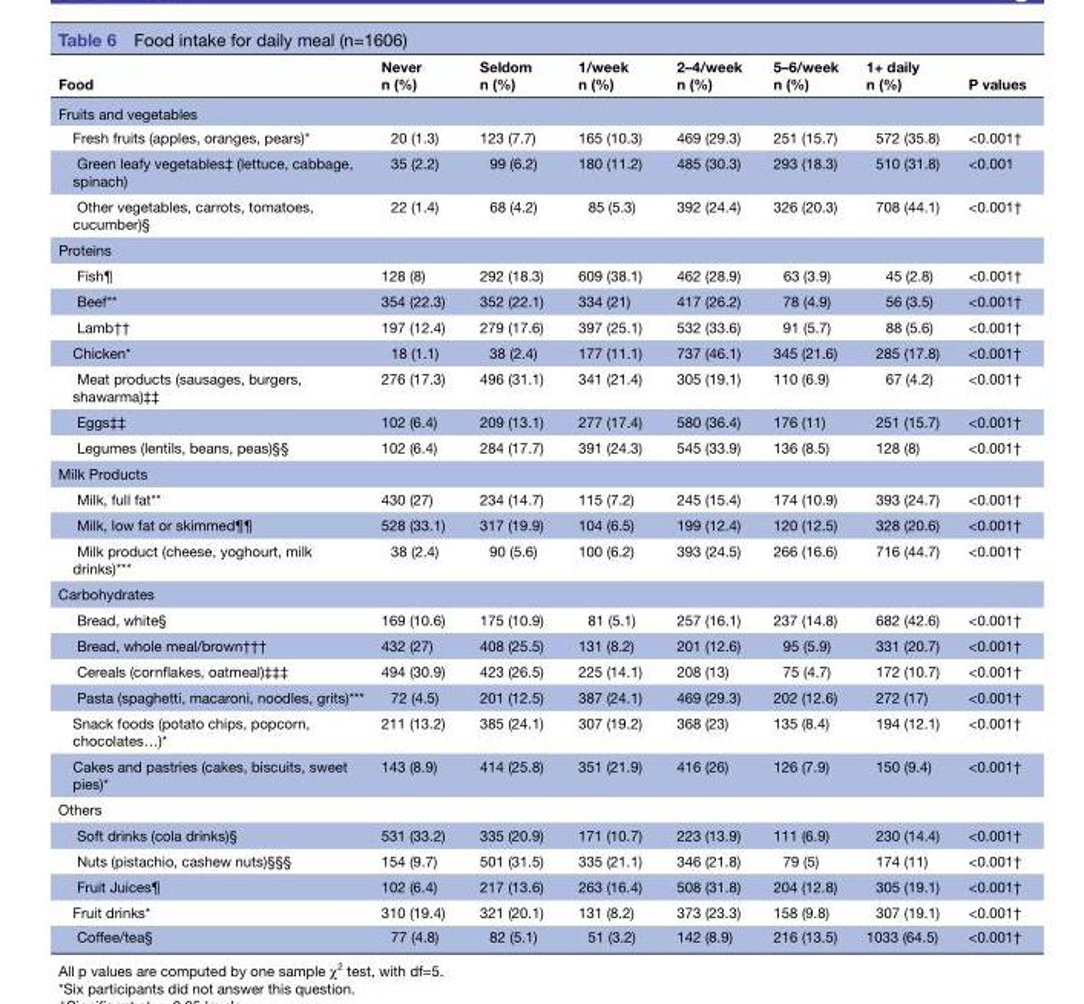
<table><thead><tr><td>Food</td><td>Never n (%)</td><td>Seldom n (%)</td><td>1/week n (%)</td><td>2–4/week n (%)</td><td>5–6/week n (%)</td><td>1+ daily n (%)</td><td>P values</td></tr></thead><tbody><tr><td colspan="8">Fruits and vegetables</td></tr><tr><td>Fresh fruits (apples, oranges, pears)*</td><td>20 (1.3)</td><td>123 (7.7)</td><td>165 (10.3)</td><td>469 (29.3)</td><td>251 (15.7)</td><td>572 (35.8)</td><td>&lt;0.001†</td></tr><tr><td>Green leafy vegetables‡ (lettuce, cabbage, spinach)</td><td>35 (2.2)</td><td>99 (6.2)</td><td>180 (11.2)</td><td>485 (30.3)</td><td>293 (18.3)</td><td>510 (31.8)</td><td>&lt;0.001</td></tr><tr><td>Other vegetables, carrots, tomatoes, cucumber)§</td><td>22 (1.4)</td><td>68 (4.2)</td><td>85 (5.3)</td><td>392 (24.4)</td><td>326 (20.3)</td><td>708 (44.1)</td><td>&lt;0.001†</td></tr><tr><td colspan="8">Proteins</td></tr><tr><td>Fish¶</td><td>128 (8)</td><td>292 (18.3)</td><td>609 (38.1)</td><td>462 (28.9)</td><td>63 (3.9)</td><td>45 (2.8)</td><td>&lt;0.001†</td></tr><tr><td>Beef**</td><td>354 (22.3)</td><td>352 (22.1)</td><td>334 (21)</td><td>417 (26.2)</td><td>78 (4.9)</td><td>56 (3.5)</td><td>&lt;0.001†</td></tr><tr><td>Lamb††</td><td>197 (12.4)</td><td>279 (17.6)</td><td>397 (25.1)</td><td>532 (33.6)</td><td>91 (5.7)</td><td>88 (5.6)</td><td>&lt;0.001†</td></tr><tr><td>Chicken*</td><td>18 (1.1)</td><td>38 (2.4)</td><td>177 (11.1)</td><td>737 (46.1)</td><td>345 (21.6)</td><td>285 (17.8)</td><td>&lt;0.001†</td></tr><tr><td>Meat products (sausages, burgers, shawarma)‡‡</td><td>276 (17.3)</td><td>496 (31.1)</td><td>341 (21.4)</td><td>305 (19.1)</td><td>110 (6.9)</td><td>67 (4.2)</td><td>&lt;0.001†</td></tr><tr><td>Eggs‡‡</td><td>102 (6.4)</td><td>209 (13.1)</td><td>277 (17.4)</td><td>580 (36.4)</td><td>176 (11)</td><td>251 (15.7)</td><td>&lt;0.001†</td></tr><tr><td>Legumes (lentils, beans, peas)§§</td><td>102 (6.4)</td><td>284 (17.7)</td><td>391 (24.3)</td><td>545 (33.9)</td><td>136 (8.5)</td><td>128 (8)</td><td>&lt;0.001†</td></tr><tr><td colspan="8">Milk Products</td></tr><tr><td>Milk, full fat**</td><td>430 (27)</td><td>234 (14.7)</td><td>115 (7.2)</td><td>245 (15.4)</td><td>174 (10.9)</td><td>393 (24.7)</td><td>&lt;0.001†</td></tr><tr><td>Milk, low fat or skimmed¶¶</td><td>528 (33.1)</td><td>317 (19.9)</td><td>104 (6.5)</td><td>199 (12.4)</td><td>120 (12.5)</td><td>328 (20.6)</td><td>&lt;0.001†</td></tr><tr><td>Milk product (cheese, yoghourt, milk drinks)***</td><td>38 (2.4)</td><td>90 (5.6)</td><td>100 (6.2)</td><td>393 (24.5)</td><td>266 (16.6)</td><td>716 (44.7)</td><td>&lt;0.001†</td></tr><tr><td colspan="8">Carbohydrates</td></tr><tr><td>Bread, white§</td><td>169 (10.6)</td><td>175 (10.9)</td><td>81 (5.1)</td><td>257 (16.1)</td><td>237 (14.8)</td><td>682 (42.6)</td><td>&lt;0.001†</td></tr><tr><td>Bread, whole meal/brown†††</td><td>432 (27)</td><td>408 (25.5)</td><td>131 (8.2)</td><td>201 (12.6)</td><td>95 (5.9)</td><td>331 (20.7)</td><td>&lt;0.001†</td></tr><tr><td>Cereals (cornflakes, oatmeal)‡‡‡</td><td>494 (30.9)</td><td>423 (26.5)</td><td>225 (14.1)</td><td>208 (13)</td><td>75 (4.7)</td><td>172 (10.7)</td><td>&lt;0.001†</td></tr><tr><td>Pasta (spaghetti, macaroni, noodles, grits)***</td><td>72 (4.5)</td><td>201 (12.5)</td><td>387 (24.1)</td><td>469 (29.3)</td><td>202 (12.6)</td><td>272 (17)</td><td>&lt;0.001†</td></tr><tr><td>Snack foods (potato chips, popcorn, chocolates…)*</td><td>211 (13.2)</td><td>385 (24.1)</td><td>307 (19.2)</td><td>368 (23)</td><td>135 (8.4)</td><td>194 (12.1)</td><td>&lt;0.001†</td></tr><tr><td>Cakes and pastries (cakes, biscuits, sweet pies)*</td><td>143 (8.9)</td><td>414 (25.8)</td><td>351 (21.9)</td><td>416 (26)</td><td>126 (7.9)</td><td>150 (9.4)</td><td>&lt;0.001†</td></tr><tr><td colspan="8">Others</td></tr><tr><td>Soft drinks (cola drinks)§</td><td>531 (33.2)</td><td>335 (20.9)</td><td>171 (10.7)</td><td>223 (13.9)</td><td>111 (6.9)</td><td>230 (14.4)</td><td>&lt;0.001†</td></tr><tr><td>Nuts (pistachio, cashew nuts)§§§</td><td>154 (9.7)</td><td>501 (31.5)</td><td>335 (21.1)</td><td>346 (21.8)</td><td>79 (5)</td><td>174 (11)</td><td>&lt;0.001†</td></tr><tr><td>Fruit Juices¶</td><td>102 (6.4)</td><td>217 (13.6)</td><td>263 (16.4)</td><td>508 (31.8)</td><td>204 (12.8)</td><td>305 (19.1)</td><td>&lt;0.001†</td></tr><tr><td>Fruit drinks*</td><td>310 (19.4)</td><td>321 (20.1)</td><td>131 (8.2)</td><td>373 (23.3)</td><td>158 (9.8)</td><td>307 (19.1)</td><td>&lt;0.001†</td></tr><tr><td>Coffee/tea§</td><td>77 (4.8)</td><td>82 (5.1)</td><td>51 (3.2)</td><td>142 (8.9)</td><td>216 (13.5)</td><td>1033 (64.5)</td><td>&lt;0.001†</td></tr></tbody></table>